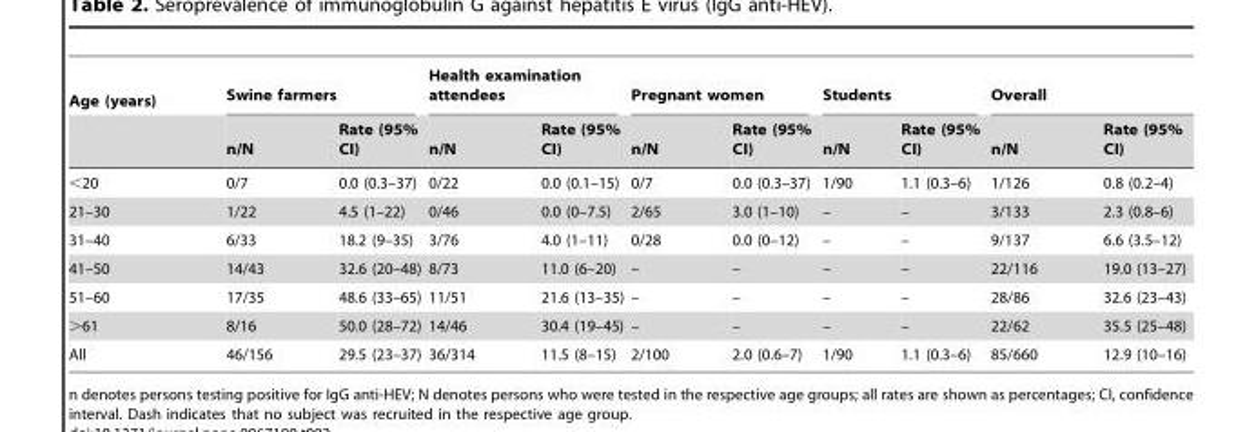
<table><thead><tr><td rowspan="2">Age (years)</td><td colspan="2">Swine farmers</td><td colspan="2">Health examination attendees</td><td colspan="2">Pregnant women</td><td colspan="2">Students</td><td colspan="2">Overall</td></tr><tr><td>n/N</td><td>Rate (95% CI)</td><td>n/N</td><td>Rate (95% CI)</td><td>n/N</td><td>Rate (95% CI)</td><td>n/N</td><td>Rate (95% CI)</td><td>n/N</td><td>Rate (95% CI)</td></tr></thead><tbody><tr><td>&lt;20</td><td>0/7</td><td>0.0 (0.3–37)</td><td>0/22</td><td>0.0 (0.1–15)</td><td>0/7</td><td>0.0 (0.3–37)</td><td>1/90</td><td>1.1 (0.3–6)</td><td>1/126</td><td>0.8 (0.2–4)</td></tr><tr><td>21–30</td><td>1/22</td><td>4.5 (1–22)</td><td>0/46</td><td>0.0 (0–7.5)</td><td>2/65</td><td>3.0 (1–10)</td><td>–</td><td>–</td><td>3/133</td><td>2.3 (0.8–6)</td></tr><tr><td>31–40</td><td>6/33</td><td>18.2 (9–35)</td><td>3/76</td><td>4.0 (1–11)</td><td>0/28</td><td>0.0 (0–12)</td><td>–</td><td>–</td><td>9/137</td><td>6.6 (3.5–12)</td></tr><tr><td>41–50</td><td>14/43</td><td>32.6 (20–48)</td><td>8/73</td><td>11.0 (6–20)</td><td>–</td><td>–</td><td>–</td><td>–</td><td>22/116</td><td>19.0 (13–27)</td></tr><tr><td>51–60</td><td>17/35</td><td>48.6 (33–65)</td><td>11/51</td><td>21.6 (13–35)</td><td>–</td><td>–</td><td>–</td><td>–</td><td>28/86</td><td>32.6 (23–43)</td></tr><tr><td>&gt;61</td><td>8/16</td><td>50.0 (28–72)</td><td>14/46</td><td>30.4 (19–45)</td><td>–</td><td>–</td><td>–</td><td>–</td><td>22/62</td><td>35.5 (25–48)</td></tr><tr><td>All</td><td>46/156</td><td>29.5 (23–37)</td><td>36/314</td><td>11.5 (8–15)</td><td>2/100</td><td>2.0 (0.6–7)</td><td>1/90</td><td>1.1 (0.3–6)</td><td>85/660</td><td>12.9 (10–16)</td></tr></tbody></table>